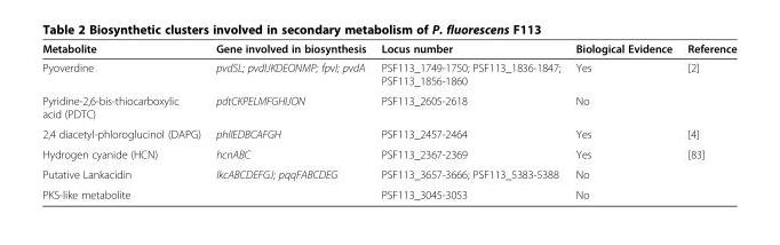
<table><thead><tr><td>Metabolite</td><td>Gene involved in biosynthesis</td><td>Locus number</td><td>Biological Evidence</td><td>Reference</td></tr></thead><tbody><tr><td>Pyoverdine</td><td>pvdSL; pvdIJKDEONMP; fpvI; pvdA</td><td>PSF113_1749-1750; PSF113_1836-1847; PSF113_1856-1860</td><td>Yes</td><td>[2]</td></tr><tr><td>Pyridine-2,6-bis-thiocarboxylic acid (PDTC)</td><td>pdtCKPELMFGHIJON</td><td>PSF113_2605-2618</td><td>No</td><td></td></tr><tr><td>2,4 diacetyl-phloroglucinol (DAPG)</td><td>phlIEDBCAFGH</td><td>PSF113_2457-2464</td><td>Yes</td><td>[4]</td></tr><tr><td>Hydrogen cyanide (HCN)</td><td>hcnABC</td><td>PSF113_2367-2369</td><td>Yes</td><td>[83]</td></tr><tr><td>Putative Lankacidin</td><td>lkcABCDEFGJ; pqqFABCDEG</td><td>PSF113_3657-3666; PSF113_5383-5388</td><td>No</td><td></td></tr><tr><td>PKS-like metabolite</td><td></td><td>PSF113_3045-3053</td><td>No</td><td></td></tr></tbody></table>